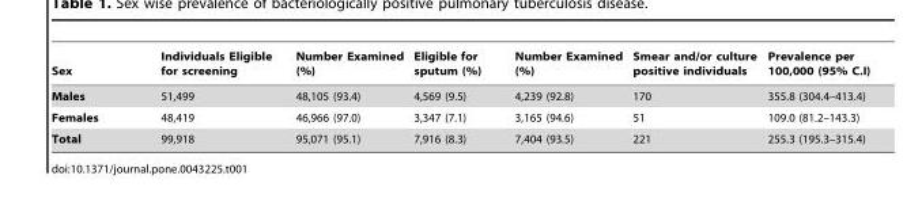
<table><thead><tr><td>Sex</td><td>Individuals Eligible for screening</td><td>Number Examined (%)</td><td>Eligible for sputum (%)</td><td>Number Examined (%)</td><td>Smear and/or culture positive individuals</td><td>Prevalence per 100,000 (95% C.I)</td></tr></thead><tbody><tr><td>Males</td><td>51,499</td><td>48,105 (93.4)</td><td>4,569 (9.5)</td><td>4,239 (92.8)</td><td>170</td><td>355.8 (304.4–413.4)</td></tr><tr><td>Females</td><td>48,419</td><td>46,966 (97.0)</td><td>3,347 (7.1)</td><td>3,165 (94.6)</td><td>51</td><td>109.0 (81.2–143.3)</td></tr><tr><td>Total</td><td>99,918</td><td>95,071 (95.1)</td><td>7,916 (8.3)</td><td>7,404 (93.5)</td><td>221</td><td>255.3 (195.3–315.4)</td></tr></tbody></table>